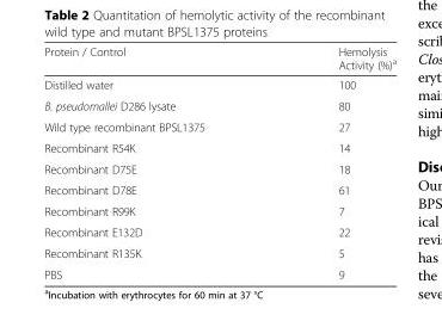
<table><thead><tr><td>Protein / Control</td><td>Hemolysis Activity (%)<sup>a</sup></td></tr></thead><tbody><tr><td>Distilled water</td><td>100</td></tr><tr><td>B. pseudomallei D286 lysate</td><td>80</td></tr><tr><td>Wild type recombinant BPSL1375</td><td>27</td></tr><tr><td>Recombinant R54K</td><td>14</td></tr><tr><td>Recombinant D75E</td><td>18</td></tr><tr><td>Recombinant D78E</td><td>61</td></tr><tr><td>Recombinant R99K</td><td>7</td></tr><tr><td>Recombinant E132D</td><td>22</td></tr><tr><td>Recombinant R135K</td><td>5</td></tr><tr><td>PBS</td><td>9</td></tr></tbody></table>